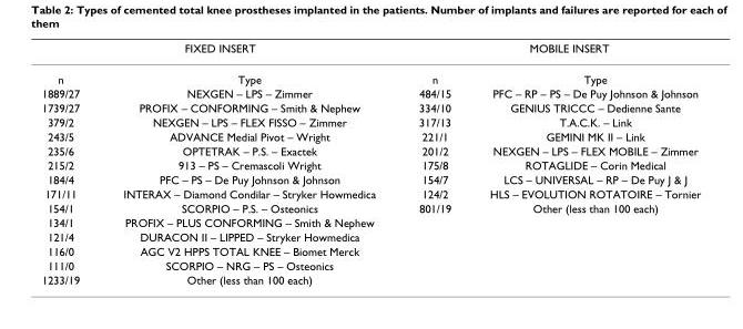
<table><thead><tr><td colspan="2">FIXED INSERT</td><td colspan="2">MOBILE INSERT</td></tr><tr><td>n</td><td>Type</td><td>n</td><td>Type</td></tr></thead><tbody><tr><td>1889/27</td><td>NEXGEN – LPS – Zimmer</td><td>484/15</td><td>PFC – RP – PS – De Puy Johnson &amp; Johnson</td></tr><tr><td>1739/27</td><td>PROFIX – CONFORMING – Smith &amp; Nephew</td><td>334/10</td><td>GENIUS TRICCC – Dedienne Sante</td></tr><tr><td>379/2</td><td>NEXGEN – LPS – FLEX FISSO – Zimmer</td><td>317/13</td><td>T.A.C.K. – Link</td></tr><tr><td>243/5</td><td>ADVANCE Medial Pivot – Wright</td><td>221/1</td><td>GEMINI MK II – Link</td></tr><tr><td>235/6</td><td>OPTETRAK – P.S. – Exactek</td><td>201/2</td><td>NEXGEN – LPS – FLEX MOBILE – Zimmer</td></tr><tr><td>215/2</td><td>913 – PS – Cremascoli Wright</td><td>175/8</td><td>ROTAGLIDE – Corin Medical</td></tr><tr><td>184/4</td><td>PFC – PS – De Puy Johnson &amp; Johnson</td><td>154/7</td><td>LCS – UNIVERSAL – RP – De Puy J &amp; J</td></tr><tr><td>171/11</td><td>INTERAX – Diamond Condilar – Stryker Howmedica</td><td>124/2</td><td>HLS – EVOLUTION ROTATOIRE – Tornier</td></tr><tr><td>154/1</td><td>SCORPIO – P.S. – Osteonics</td><td>801/19</td><td>Other (less than 100 each)</td></tr><tr><td>134/1</td><td>PROFIX – PLUS CONFORMING – Smith &amp; Nephew</td><td></td><td></td></tr><tr><td>121/4</td><td>DURACON II – LIPPED – Stryker Howmedica</td><td></td><td></td></tr><tr><td>116/0</td><td>AGC V2 HPPS TOTAL KNEE – Biomet Merck</td><td></td><td></td></tr><tr><td>111/0</td><td>SCORPIO – NRG – PS – Osteonics</td><td></td><td></td></tr><tr><td>1233/19</td><td>Other (less than 100 each)</td><td></td><td></td></tr></tbody></table>